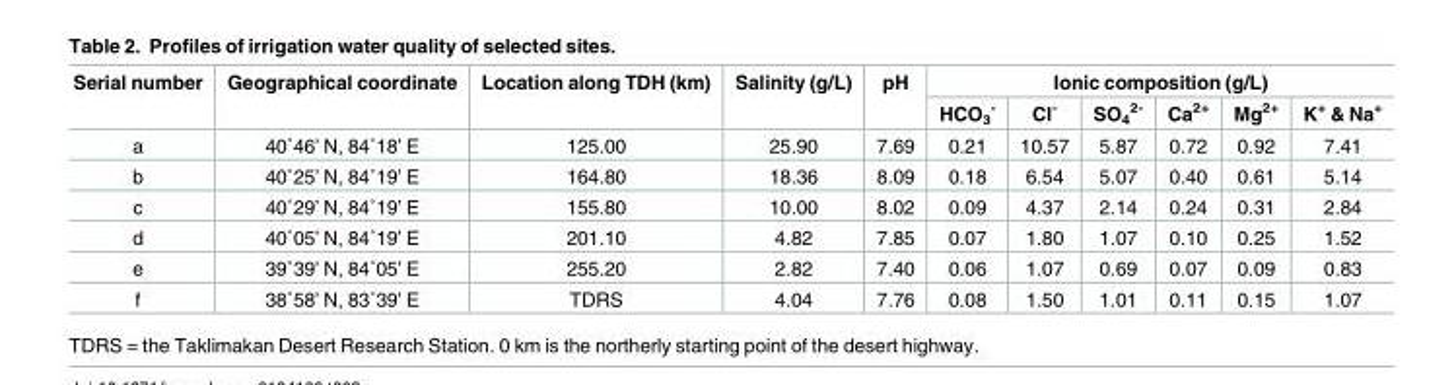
<table><thead><tr><td rowspan="2">Serial number</td><td rowspan="2">Geographical coordinate</td><td rowspan="2">Location along TDH (km)</td><td rowspan="2">Salinity (g/L)</td><td rowspan="2">pH</td><td colspan="6">Ionic composition (g/L)</td></tr><tr><td>HCO<sub>3</sub> <sup>-</sup></td><td>Cl<sup>-</sup></td><td>SO<sub>4</sub> <sup>2-</sup></td><td>Ca<sup>2+</sup></td><td>Mg<sup>2+</sup></td><td>K<sup>+</sup> &amp; Na<sup>+</sup></td></tr></thead><tbody><tr><td>a</td><td>40˚46’ N, 84˚18’ E</td><td>125.00</td><td>25.90</td><td>7.69</td><td>0.21</td><td>10.57</td><td>5.87</td><td>0.72</td><td>0.92</td><td>7.41</td></tr><tr><td>b</td><td>40˚25’ N, 84˚19’ E</td><td>164.80</td><td>18.36</td><td>8.09</td><td>0.18</td><td>6.54</td><td>5.07</td><td>0.40</td><td>0.61</td><td>5.14</td></tr><tr><td>c</td><td>40˚29’ N, 84˚19’ E</td><td>155.80</td><td>10.00</td><td>8.02</td><td>0.09</td><td>4.37</td><td>2.14</td><td>0.24</td><td>0.31</td><td>2.84</td></tr><tr><td>d</td><td>40˚05’ N, 84˚19’ E</td><td>201.10</td><td>4.82</td><td>7.85</td><td>0.07</td><td>1.80</td><td>1.07</td><td>0.10</td><td>0.25</td><td>1.52</td></tr><tr><td>e</td><td>39˚39’ N, 84˚05’ E</td><td>255.20</td><td>2.82</td><td>7.40</td><td>0.06</td><td>1.07</td><td>0.69</td><td>0.07</td><td>0.09</td><td>0.83</td></tr><tr><td>f</td><td>38˚58’ N, 83˚39’ E</td><td>TDRS</td><td>4.04</td><td>7.76</td><td>0.08</td><td>1.50</td><td>1.01</td><td>0.11</td><td>0.15</td><td>1.07</td></tr></tbody></table>